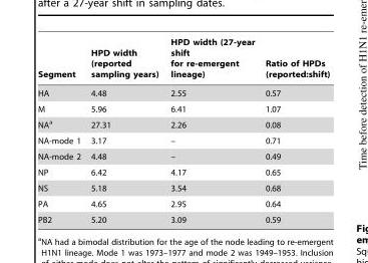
<table><thead><tr><td>Segment</td><td>HPD width (reported sampling years)</td><td>HPD width (27-year shift for re-emergent lineage)</td><td>Ratio of HPDs (reported:shift)</td></tr></thead><tbody><tr><td>HA</td><td>4.48</td><td>2.55</td><td>0.57</td></tr><tr><td>M</td><td>5.96</td><td>6.41</td><td>1.07</td></tr><tr><td>NA<sup>a</sup></td><td>27.31</td><td>2.26</td><td>0.08</td></tr><tr><td>NA-mode 1</td><td>3.17</td><td>–</td><td>0.71</td></tr><tr><td>NA-mode 2</td><td>4.48</td><td>–</td><td>0.49</td></tr><tr><td>NP</td><td>6.42</td><td>4.17</td><td>0.65</td></tr><tr><td>NS</td><td>5.18</td><td>3.54</td><td>0.68</td></tr><tr><td>PA</td><td>4.65</td><td>2.95</td><td>0.64</td></tr><tr><td>PB2</td><td>5.20</td><td>3.09</td><td>0.59</td></tr></tbody></table>